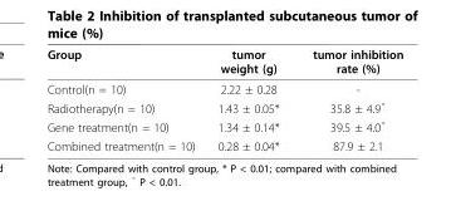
<table><thead><tr><td>Group</td><td>tumor weight (g)</td><td>tumor inhibition rate (%)</td></tr></thead><tbody><tr><td>Control(n = 10)</td><td>2.22 ± 0.28</td><td>-</td></tr><tr><td>Radiotherapy(n = 10)</td><td>1.43 ± 0.05*</td><td>35.8 ± 4.9<sup>▫</sup></td></tr><tr><td>Gene treatment(n = 10)</td><td>1.34 ± 0.14*</td><td>39.5 ± 4.0<sup>▫</sup></td></tr><tr><td>Combined treatment(n = 10)</td><td>0.28 ± 0.04*</td><td>87.9 ± 2.1</td></tr></tbody></table>